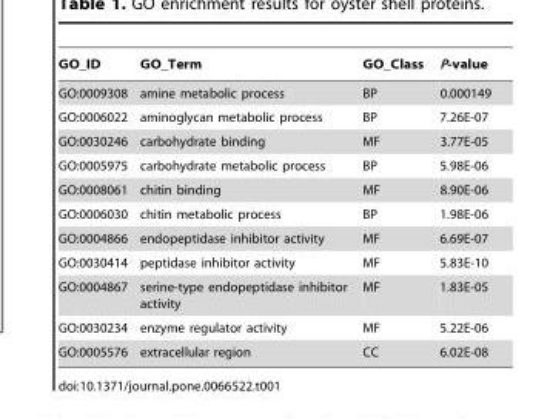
<table><thead><tr><td>GO_ID</td><td>GO_Term</td><td>GO_Class</td><td>P-value</td></tr></thead><tbody><tr><td>GO:0009308</td><td>amine metabolic process</td><td>BP</td><td>0.000149</td></tr><tr><td>GO:0006022</td><td>aminoglycan metabolic process</td><td>BP</td><td>7.26E-07</td></tr><tr><td>GO:0030246</td><td>carbohydrate binding</td><td>MF</td><td>3.77E-05</td></tr><tr><td>GO:0005975</td><td>carbohydrate metabolic process</td><td>BP</td><td>5.98E-06</td></tr><tr><td>GO:0008061</td><td>chitin binding</td><td>MF</td><td>8.90E-06</td></tr><tr><td>GO:0006030</td><td>chitin metabolic process</td><td>BP</td><td>1.98E-06</td></tr><tr><td>GO:0004866</td><td>endopeptidase inhibitor activity</td><td>MF</td><td>6.69E-07</td></tr><tr><td>GO:0030414</td><td>peptidase inhibitor activity</td><td>MF</td><td>5.83E-10</td></tr><tr><td>GO:0004867</td><td>serine-type endopeptidase inhibitor activity</td><td>MF</td><td>1.83E-05</td></tr><tr><td>GO:0030234</td><td>enzyme regulator activity</td><td>MF</td><td>5.22E-06</td></tr><tr><td>GO:0005576</td><td>extracellular region</td><td>CC</td><td>6.02E-08</td></tr></tbody></table>